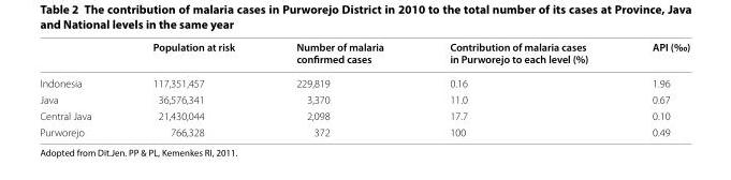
<table><thead><tr><td></td><td>Population at risk</td><td>Number of malaria confirmed cases</td><td>Contribution of malaria cases in Purworejo to each level (%)</td><td>API (‰)</td></tr></thead><tbody><tr><td>Indonesia</td><td>117,351,457</td><td>229,819</td><td>0.16</td><td>1.96</td></tr><tr><td>Java</td><td>36,576,341</td><td>3,370</td><td>11.0</td><td>0.67</td></tr><tr><td>Central Java</td><td>21,430,044</td><td>2,098</td><td>17.7</td><td>0.10</td></tr><tr><td>Purworejo</td><td>766,328</td><td>372</td><td>100</td><td>0.49</td></tr></tbody></table>